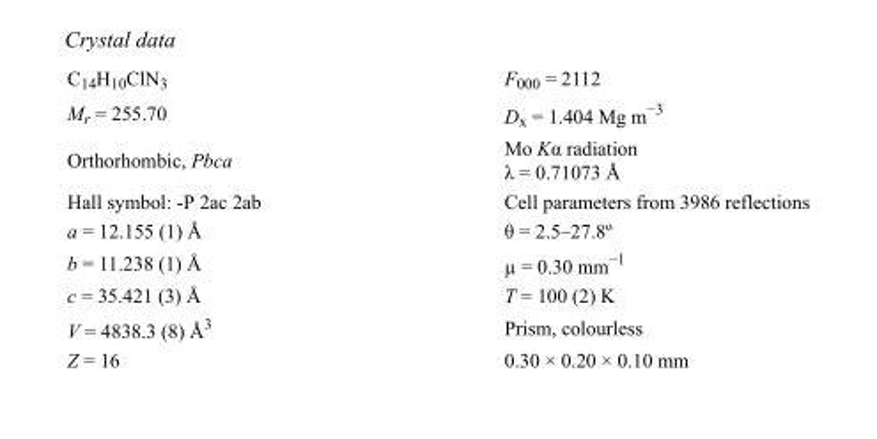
<table><tbody><tr><td>C<sub>14</sub>H<sub>10</sub>ClN<sub>3</sub></td><td>F<sub>000</sub> = 2112</td></tr><tr><td>M<sub>r</sub> = 255.70</td><td>D<sub>x</sub> = 1.404 Mg m<sup>−3</sup></td></tr><tr><td>Orthorhombic, Pbca</td><td>Mo Kα radiation λ = 0.71073 Å</td></tr><tr><td>Hall symbol: -P 2ac 2ab</td><td>Cell parameters from 3986 reflections</td></tr><tr><td>a = 12.155 (1) Å</td><td>θ = 2.5–27.8º</td></tr><tr><td>b = 11.238 (1) Å</td><td>µ = 0.30 mm<sup>−1</sup></td></tr><tr><td>c = 35.421 (3) Å</td><td>T = 100 (2) K</td></tr><tr><td>V = 4838.3 (8) Å<sup>3</sup></td><td>Prism, colourless</td></tr><tr><td>Z = 16</td><td>0.30 × 0.20 × 0.10 mm</td></tr></tbody></table>